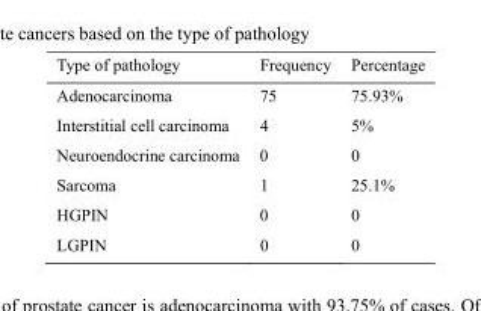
<table><thead><tr><td>Type of pathology</td><td>Frequency</td><td>Percentage</td></tr></thead><tbody><tr><td>Adenocarcinoma</td><td>75</td><td>75.93%</td></tr><tr><td>Interstitial cell carcinoma</td><td>4</td><td>5%</td></tr><tr><td>Neuroendocrine carcinoma</td><td>0</td><td>0</td></tr><tr><td>Sarcoma</td><td>1</td><td>25.1%</td></tr><tr><td>HGPIN</td><td>0</td><td>0</td></tr><tr><td>LGPIN</td><td>0</td><td>0</td></tr></tbody></table>